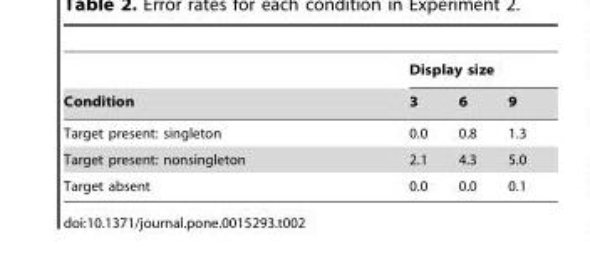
<table><thead><tr><td rowspan="2">Condition</td><td colspan="3">Display size</td></tr><tr><td>3</td><td>6</td><td>9</td></tr></thead><tbody><tr><td>Target present: singleton</td><td>0.0</td><td>0.8</td><td>1.3</td></tr><tr><td>Target present: nonsingleton</td><td>2.1</td><td>4.3</td><td>5.0</td></tr><tr><td>Target absent</td><td>0.0</td><td>0.0</td><td>0.1</td></tr></tbody></table>